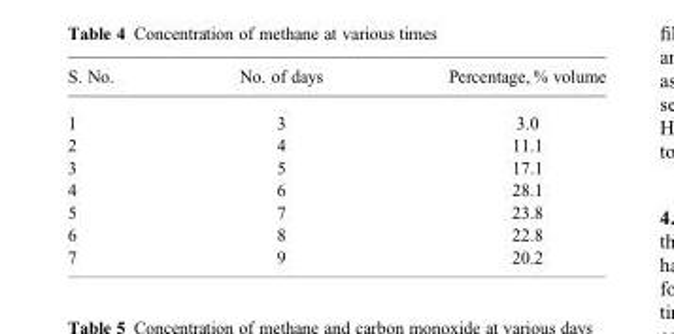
<table><thead><tr><td>S. No.</td><td>No. of days</td><td>Percentage, % volume</td></tr></thead><tbody><tr><td>1</td><td>3</td><td>3.0</td></tr><tr><td>2</td><td>4</td><td>11.1</td></tr><tr><td>3</td><td>5</td><td>17.1</td></tr><tr><td>4</td><td>6</td><td>28.1</td></tr><tr><td>5</td><td>7</td><td>23.8</td></tr><tr><td>6</td><td>8</td><td>22.8</td></tr><tr><td>7</td><td>9</td><td>20.2</td></tr></tbody></table>